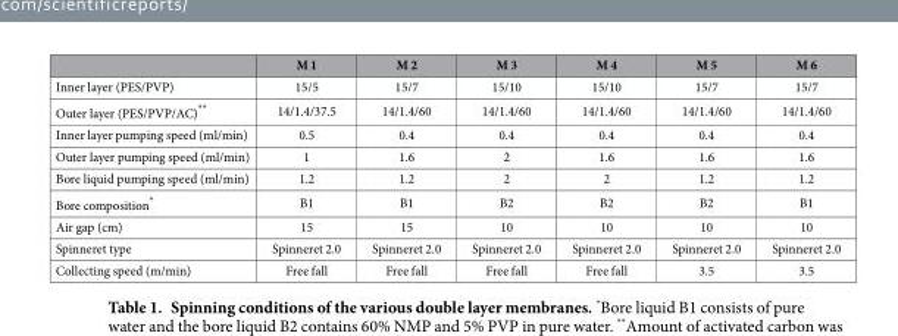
<table><thead><tr><td></td><td>M 1</td><td>M 2</td><td>M 3</td><td>M 4</td><td>M 5</td><td>M 6</td></tr></thead><tbody><tr><td>Inner layer (PES/PVP)</td><td>15/5</td><td>15/7</td><td>15/10</td><td>15/10</td><td>15/7</td><td>15/7</td></tr><tr><td>Outer layer (PES/PVP/AC)**</td><td>14/1.4/37.5</td><td>14/1.4/60</td><td>14/1.4/60</td><td>14/1.4/60</td><td>14/1.4/60</td><td>14/1.4/60</td></tr><tr><td>Inner layer pumping speed (ml/min)</td><td>0.5</td><td>0.4</td><td>0.4</td><td>0.4</td><td>0.4</td><td>0.4</td></tr><tr><td>Outer layer pumping speed (ml/min)</td><td>1</td><td>1.6</td><td>2</td><td>1.6</td><td>1.6</td><td>1.6</td></tr><tr><td>Bore liquid pumping speed (ml/min)</td><td>1.2</td><td>1.2</td><td>2</td><td>2</td><td>1.2</td><td>1.2</td></tr><tr><td>Bore composition*</td><td>B1</td><td>B1</td><td>B2</td><td>B2</td><td>B2</td><td>B1</td></tr><tr><td>Air gap (cm)</td><td>15</td><td>15</td><td>10</td><td>10</td><td>10</td><td>10</td></tr><tr><td>Spinneret type</td><td>Spinneret 2.0</td><td>Spinneret 2.0</td><td>Spinneret 2.0</td><td>Spinneret 2.0</td><td>Spinneret 2.0</td><td>Spinneret 2.0</td></tr><tr><td>Collecting speed (m/min)</td><td>Free fall</td><td>Free fall</td><td>Free fall</td><td>Free fall</td><td>3.5</td><td>3.5</td></tr></tbody></table>